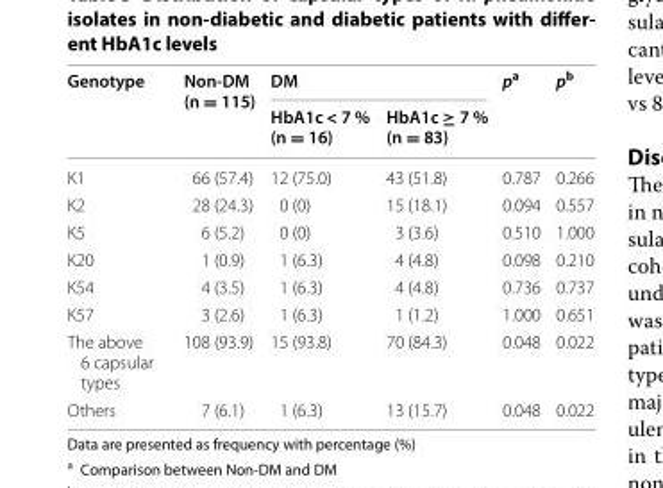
<table><thead><tr><td rowspan="2">Genotype</td><td rowspan="2">Non‑DM (n = 115)</td><td colspan="2">DM</td><td rowspan="2">p<sup>a</sup></td><td rowspan="2">p<sup>b</sup></td></tr><tr><td>HbA1c &lt; 7 % (n = 16)</td><td>HbA1c ≥ 7 % (n = 83)</td></tr></thead><tbody><tr><td>K1</td><td>66 (57.4)</td><td>12 (75.0)</td><td>43 (51.8)</td><td>0.787</td><td>0.266</td></tr><tr><td>K2</td><td>28 (24.3)</td><td>0 (0)</td><td>15 (18.1)</td><td>0.094</td><td>0.557</td></tr><tr><td>K5</td><td>6 (5.2)</td><td>0 (0)</td><td>3 (3.6)</td><td>0.510</td><td>1.000</td></tr><tr><td>K20</td><td>1 (0.9)</td><td>1 (6.3)</td><td>4 (4.8)</td><td>0.098</td><td>0.210</td></tr><tr><td>K54</td><td>4 (3.5)</td><td>1 (6.3)</td><td>4 (4.8)</td><td>0.736</td><td>0.737</td></tr><tr><td>K57</td><td>3 (2.6)</td><td>1 (6.3)</td><td>1 (1.2)</td><td>1.000</td><td>0.651</td></tr><tr><td>The above 6 capsular types</td><td>108 (93.9)</td><td>15 (93.8)</td><td>70 (84.3)</td><td>0.048</td><td>0.022</td></tr><tr><td>Others</td><td>7 (6.1)</td><td>1 (6.3)</td><td>13 (15.7)</td><td>0.048</td><td>0.022</td></tr></tbody></table>